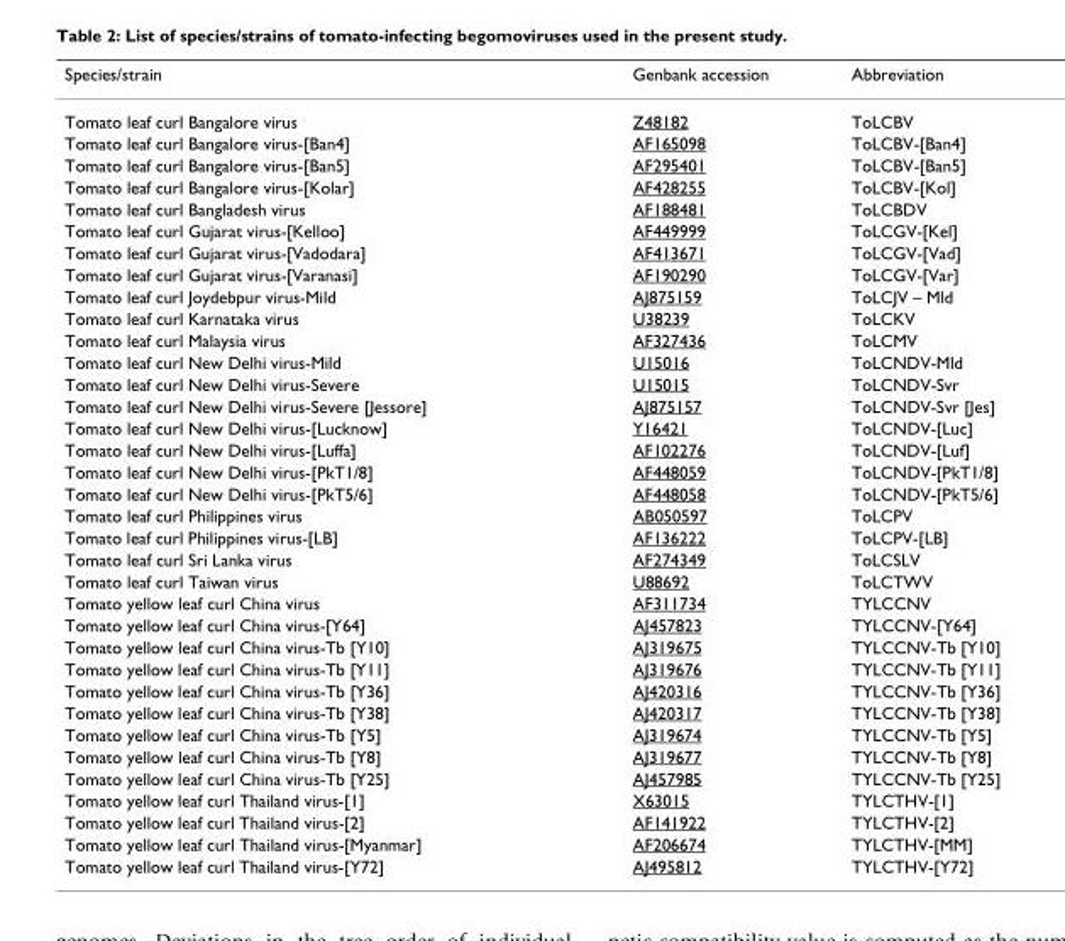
<table><thead><tr><td>Species/strain</td><td>Genbank accession</td><td>Abbreviation</td></tr></thead><tbody><tr><td>Tomato leaf curl Bangalore virus</td><td>Z48182</td><td>ToLCBV</td></tr><tr><td>Tomato leaf curl Bangalore virus-[Ban4]</td><td>AF165098</td><td>ToLCBV-[Ban4]</td></tr><tr><td>Tomato leaf curl Bangalore virus-[Ban5]</td><td>AF295401</td><td>ToLCBV-[Ban5]</td></tr><tr><td>Tomato leaf curl Bangalore virus-[Kolar]</td><td>AF428255</td><td>ToLCBV-[Kol]</td></tr><tr><td>Tomato leaf curl Bangladesh virus</td><td>AF188481</td><td>ToLCBDV</td></tr><tr><td>Tomato leaf curl Gujarat virus-[Kelloo]</td><td>AF449999</td><td>ToLCGV-[Kel]</td></tr><tr><td>Tomato leaf curl Gujarat virus-[Vadodara]</td><td>AF413671</td><td>ToLCGV-[Vad]</td></tr><tr><td>Tomato leaf curl Gujarat virus-[Varanasi]</td><td>AF190290</td><td>ToLCGV-[Var]</td></tr><tr><td>Tomato leaf curl Joydebpur virus-Mild</td><td>AJ875159</td><td>ToLCJV – Mld</td></tr><tr><td>Tomato leaf curl Karnataka virus</td><td>U38239</td><td>ToLCKV</td></tr><tr><td>Tomato leaf curl Malaysia virus</td><td>AF327436</td><td>ToLCMV</td></tr><tr><td>Tomato leaf curl New Delhi virus-Mild</td><td>U15016</td><td>ToLCNDV-Mld</td></tr><tr><td>Tomato leaf curl New Delhi virus-Severe</td><td>U15015</td><td>ToLCNDV-Svr</td></tr><tr><td>Tomato leaf curl New Delhi virus-Severe [Jessore]</td><td>AJ875157</td><td>ToLCNDV-Svr [Jes]</td></tr><tr><td>Tomato leaf curl New Delhi virus-[Lucknow]</td><td>Y16421</td><td>ToLCNDV-[Luc]</td></tr><tr><td>Tomato leaf curl New Delhi virus-[Luffa]</td><td>AF102276</td><td>ToLCNDV-[Luf]</td></tr><tr><td>Tomato leaf curl New Delhi virus-[PkT1/8]</td><td>AF448059</td><td>ToLCNDV-[PkT1/8]</td></tr><tr><td>Tomato leaf curl New Delhi virus-[PkT5/6]</td><td>AF448058</td><td>ToLCNDV-[PkT5/6]</td></tr><tr><td>Tomato leaf curl Philippines virus</td><td>AB050597</td><td>ToLCPV</td></tr><tr><td>Tomato leaf curl Philippines virus-[LB]</td><td>AF136222</td><td>ToLCPV-[LB]</td></tr><tr><td>Tomato leaf curl Sri Lanka virus</td><td>AF274349</td><td>ToLCSLV</td></tr><tr><td>Tomato leaf curl Taiwan virus</td><td>U88692</td><td>ToLCTWV</td></tr><tr><td>Tomato yellow leaf curl China virus</td><td>AF311734</td><td>TYLCCNV</td></tr><tr><td>Tomato yellow leaf curl China virus-[Y64]</td><td>AJ457823</td><td>TYLCCNV-[Y64]</td></tr><tr><td>Tomato yellow leaf curl China virus-Tb [Y10]</td><td>AJ319675</td><td>TYLCCNV-Tb [Y10]</td></tr><tr><td>Tomato yellow leaf curl China virus-Tb [Y11]</td><td>AJ319676</td><td>TYLCCNV-Tb [Y11]</td></tr><tr><td>Tomato yellow leaf curl China virus-Tb [Y36]</td><td>AJ420316</td><td>TYLCCNV-Tb [Y36]</td></tr><tr><td>Tomato yellow leaf curl China virus-Tb [Y38]</td><td>AJ420317</td><td>TYLCCNV-Tb [Y38]</td></tr><tr><td>Tomato yellow leaf curl China virus-Tb [Y5]</td><td>AJ319674</td><td>TYLCCNV-Tb [Y5]</td></tr><tr><td>Tomato yellow leaf curl China virus-Tb [Y8]</td><td>AJ319677</td><td>TYLCCNV-Tb [Y8]</td></tr><tr><td>Tomato yellow leaf curl China virus-Tb [Y25]</td><td>AJ457985</td><td>TYLCCNV-Tb [Y25]</td></tr><tr><td>Tomato yellow leaf curl Thailand virus-[1]</td><td>X63015</td><td>TYLCTHV-[1]</td></tr><tr><td>Tomato yellow leaf curl Thailand virus-[2]</td><td>AF141922</td><td>TYLCTHV-[2]</td></tr><tr><td>Tomato yellow leaf curl Thailand virus-[Myanmar]</td><td>AF206674</td><td>TYLCTHV-[MM]</td></tr><tr><td>Tomato yellow leaf curl Thailand virus-[Y72]</td><td>AJ495812</td><td>TYLCTHV-[Y72]</td></tr></tbody></table>